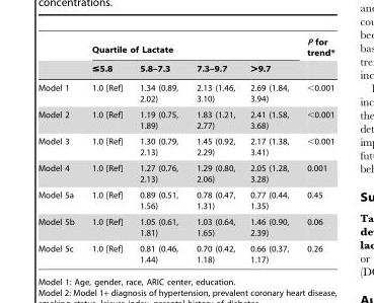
<table><thead><tr><td rowspan="2"></td><td colspan="4">Quartile of Lactate</td><td rowspan="2">P for trend*</td></tr><tr><td>≤5.8</td><td>5.8–7.3</td><td>7.3–9.7</td><td>&gt;9.7</td></tr></thead><tbody><tr><td>Model 1</td><td>1.0 [Ref]</td><td>1.34 (0.89, 2.02)</td><td>2.13 (1.46, 3.10)</td><td>2.69 (1.84, 3.94)</td><td>&lt;0.001</td></tr><tr><td>Model 2</td><td>1.0 [Ref]</td><td>1.19 (0.75, 1.89)</td><td>1.83 (1.21, 2.77)</td><td>2.41 (1.58, 3.68)</td><td>&lt;0.001</td></tr><tr><td>Model 3</td><td>1.0 [Ref]</td><td>1.30 (0.79, 2.13)</td><td>1.45 (0.92, 2.29)</td><td>2.17 (1.38, 3.41)</td><td>&lt;0.001</td></tr><tr><td>Model 4</td><td>1.0 [Ref]</td><td>1.27 (0.76, 2.13)</td><td>1.29 (0.80, 2.06)</td><td>2.05 (1.28, 3.28)</td><td>0.001</td></tr><tr><td>Model 5a</td><td>1.0 [Ref]</td><td>0.89 (0.51, 1.56)</td><td>0.78 (0.47, 1.31)</td><td>0.77 (0.44, 1.35)</td><td>0.45</td></tr><tr><td>Model 5b</td><td>1.0 [Ref]</td><td>1.05 (0.61, 1.81)</td><td>1.03 (0.64, 1.65)</td><td>1.46 (0.90, 2.39)</td><td>0.06</td></tr><tr><td>Model 5c</td><td>1.0 [Ref]</td><td>0.81 (0.46, 1.44)</td><td>0.70 (0.42, 1.18)</td><td>0.66 (0.37, 1.17)</td><td>0.26</td></tr></tbody></table>